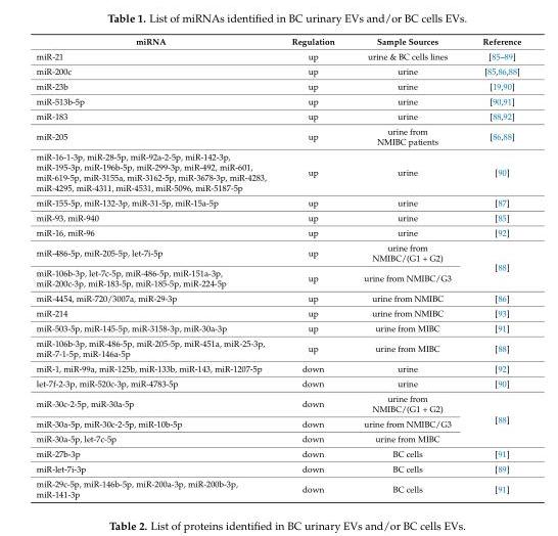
<table><thead><tr><td>miRNA</td><td>Regulation</td><td>Sample Sources</td><td>Reference</td></tr></thead><tbody><tr><td>miR-21</td><td>up</td><td>urine &amp; BC cells lines</td><td>[85–89]</td></tr><tr><td>miR-200c</td><td>up</td><td>urine</td><td>[85,86,88]</td></tr><tr><td>miR-23b</td><td>up</td><td>urine</td><td>[19,90]</td></tr><tr><td>miR-513b-5p</td><td>up</td><td>urine</td><td>[90,91]</td></tr><tr><td>miR-183</td><td>up</td><td>urine</td><td>[88,92]</td></tr><tr><td>miR-205</td><td>up</td><td>urine from NMIBC patients</td><td>[86,88]</td></tr><tr><td>miR-16-1-3p, miR-28-5p, miR-92a-2-5p, miR-142-3p, miR-195-3p, miR-196b-5p, miR-299-3p, miR-492, miR-601, miR-619-5p, miR-3155a, miR-3162-5p, miR-3678-3p, miR-4283, miR-4295, miR-4311, miR-4531, miR-5096, miR-5187-5p</td><td>up</td><td>urine</td><td>[90]</td></tr><tr><td>miR-155-5p, miR-132-3p, miR-31-5p, miR-15a-5p</td><td>up</td><td>urine</td><td>[87]</td></tr><tr><td>miR-93, miR-940</td><td>up</td><td>urine</td><td>[85]</td></tr><tr><td>miR-16, miR-96</td><td>up</td><td>urine</td><td>[92]</td></tr><tr><td>miR-486-5p, miR-205-5p, let-7i-5p</td><td>up</td><td>urine from NMIBC/(G1 + G2)</td><td rowspan="2">[88]</td></tr><tr><td>miR-106b-3p, let-7c-5p, miR-486-5p, miR-151a-3p, miR-200c-3p, miR-183-5p, miR-185-5p, miR-224-5p</td><td>up</td><td>urine from NMIBC/G3</td></tr><tr><td>miR-4454, miR-720/3007a, miR-29-3p</td><td>up</td><td>urine from NMIBC</td><td>[86]</td></tr><tr><td>miR-214</td><td>up</td><td>urine from NMIBC</td><td>[93]</td></tr><tr><td>miR-503-5p, miR-145-5p, miR-3158-3p, miR-30a-3p</td><td>up</td><td>urine from MIBC</td><td>[91]</td></tr><tr><td>miR-106b-3p, miR-486-5p, miR-205-5p, miR-451a, miR-25-3p, miR-7-1-5p, miR-146a-5p</td><td>up</td><td>urine from MIBC</td><td>[88]</td></tr><tr><td>miR-1, miR-99a, miR-125b, miR-133b, miR-143, miR-1207-5p</td><td>down</td><td>urine</td><td>[92]</td></tr><tr><td>let-7f-2-3p, miR-520c-3p, miR-4783-5p</td><td>down</td><td>urine</td><td>[90]</td></tr><tr><td>miR-30c-2-5p, miR-30a-5p</td><td>down</td><td>urine from NMIBC/(G1 + G2)</td><td rowspan="3">[88]</td></tr><tr><td>miR-30a-5p, miR-30c-2-5p, miR-10b-5p</td><td>down</td><td>urine from NMIBC/G3</td></tr><tr><td>miR-30a-5p, let-7c-5p</td><td>down</td><td>urine from MIBC</td></tr><tr><td>miR-27b-3p</td><td>down</td><td>BC cells</td><td>[91]</td></tr><tr><td>miR-let-7i-3p</td><td>down</td><td>BC cells</td><td>[89]</td></tr><tr><td>miR-29c-5p, miR-146b-5p, miR-200a-3p, miR-200b-3p, miR-141-3p</td><td>down</td><td>BC cells</td><td>[91]</td></tr></tbody></table>